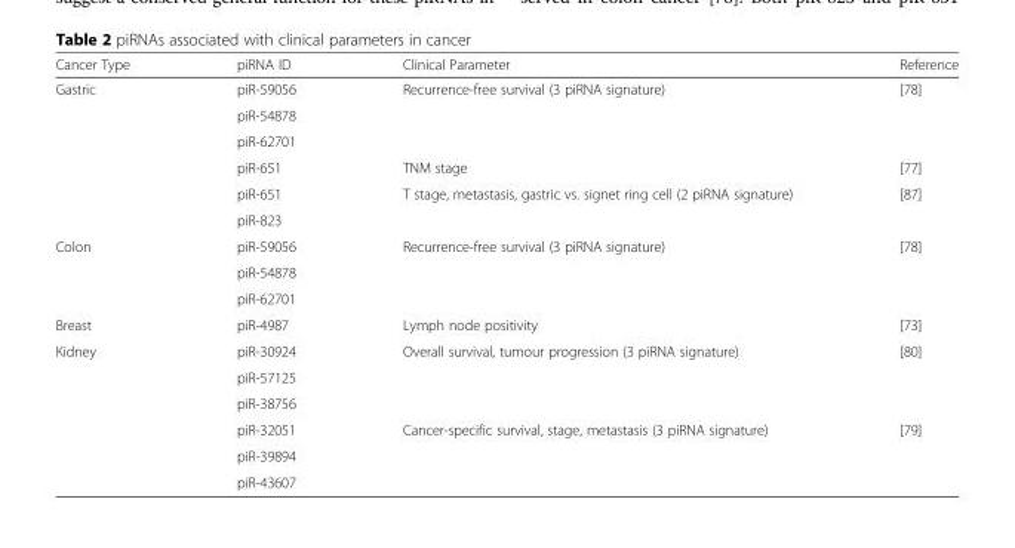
<table><thead><tr><td>Cancer Type</td><td>piRNA ID</td><td>Clinical Parameter</td><td>Reference</td></tr></thead><tbody><tr><td rowspan="6">Gastric</td><td>piR-59056</td><td rowspan="3">Recurrence-free survival (3 piRNA signature)</td><td rowspan="3">[78]</td></tr><tr><td>piR-54878</td></tr><tr><td>piR-62701</td></tr><tr><td>piR-651</td><td>TNM stage</td><td>[77]</td></tr><tr><td>piR-651</td><td rowspan="2">T stage, metastasis, gastric vs. signet ring cell (2 piRNA signature)</td><td rowspan="2">[87]</td></tr><tr><td>piR-823</td></tr><tr><td rowspan="3">Colon</td><td>piR-59056</td><td rowspan="3">Recurrence-free survival (3 piRNA signature)</td><td rowspan="3">[78]</td></tr><tr><td>piR-54878</td></tr><tr><td>piR-62701</td></tr><tr><td>Breast</td><td>piR-4987</td><td>Lymph node positivity</td><td>[73]</td></tr><tr><td rowspan="6">Kidney</td><td>piR-30924</td><td rowspan="3">Overall survival, tumour progression (3 piRNA signature)</td><td rowspan="3">[80]</td></tr><tr><td>piR-57125</td></tr><tr><td>piR-38756</td></tr><tr><td>piR-32051</td><td rowspan="3">Cancer-specific survival, stage, metastasis (3 piRNA signature)</td><td rowspan="3">[79]</td></tr><tr><td>piR-39894</td></tr><tr><td>piR-43607</td></tr></tbody></table>